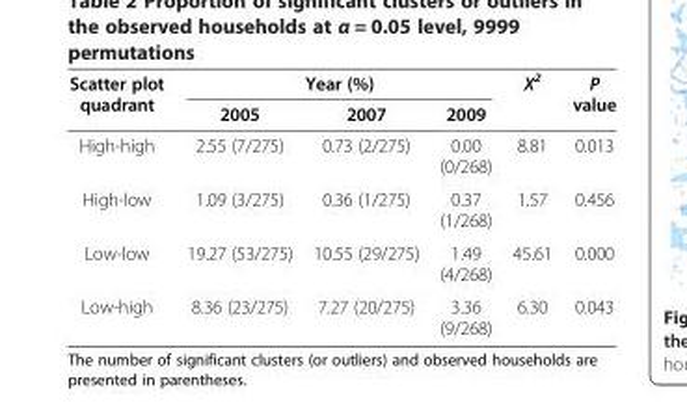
<table><thead><tr><td rowspan="2">Scatter plot quadrant</td><td colspan="3">Year (%)</td><td rowspan="2">Χ<sup>2</sup></td><td rowspan="2">P value</td></tr><tr><td>2005</td><td>2007</td><td>2009</td></tr></thead><tbody><tr><td>High-high</td><td>2.55 (7/275)</td><td>0.73 (2/275)</td><td>0.00 (0/268)</td><td>8.81</td><td>0.013</td></tr><tr><td>High-low</td><td>1.09 (3/275)</td><td>0.36 (1/275)</td><td>0.37 (1/268)</td><td>1.57</td><td>0.456</td></tr><tr><td>Low-low</td><td>19.27 (53/275)</td><td>10.55 (29/275)</td><td>1.49 (4/268)</td><td>45.61</td><td>0.000</td></tr><tr><td>Low-high</td><td>8.36 (23/275)</td><td>7.27 (20/275)</td><td>3.36 (9/268)</td><td>6.30</td><td>0.043</td></tr></tbody></table>